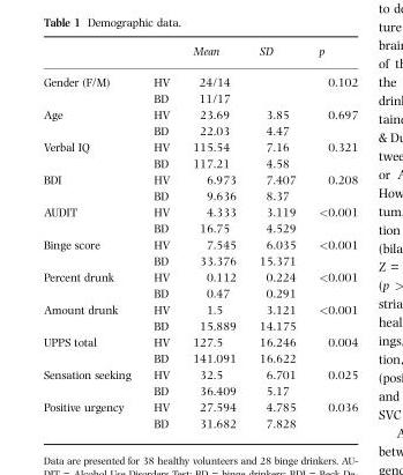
<table><thead><tr><td></td><td></td><td>Mean</td><td>SD</td><td>p</td></tr></thead><tbody><tr><td rowspan="2">Gender (F/M)</td><td>HV</td><td>24/14</td><td></td><td>0.102</td></tr><tr><td>BD</td><td>11/17</td><td></td><td></td></tr><tr><td rowspan="2">Age</td><td>HV</td><td>23.69</td><td>3.85</td><td>0.697</td></tr><tr><td>BD</td><td>22.03</td><td>4.47</td><td></td></tr><tr><td rowspan="2">Verbal IQ</td><td>HV</td><td>115.54</td><td>7.16</td><td>0.321</td></tr><tr><td>BD</td><td>117.21</td><td>4.58</td><td></td></tr><tr><td rowspan="2">BDI</td><td>HV</td><td>6.973</td><td>7.407</td><td>0.208</td></tr><tr><td>BD</td><td>9.636</td><td>8.37</td><td></td></tr><tr><td rowspan="2">AUDIT</td><td>HV</td><td>4.333</td><td>3.119</td><td>&lt;0.001</td></tr><tr><td>BD</td><td>16.75</td><td>4.529</td><td></td></tr><tr><td rowspan="2">Binge score</td><td>HV</td><td>7.545</td><td>6.035</td><td>&lt;0.001</td></tr><tr><td>BD</td><td>33.376</td><td>15.371</td><td></td></tr><tr><td rowspan="2">Percent drunk</td><td>HV</td><td>0.112</td><td>0.224</td><td>&lt;0.001</td></tr><tr><td>BD</td><td>0.47</td><td>0.291</td><td></td></tr><tr><td rowspan="2">Amount drunk</td><td>HV</td><td>1.5</td><td>3.121</td><td>&lt;0.001</td></tr><tr><td>BD</td><td>15.889</td><td>14.175</td><td></td></tr><tr><td rowspan="2">UPPS total</td><td>HV</td><td>127.5</td><td>16.246</td><td>0.004</td></tr><tr><td>BD</td><td>141.091</td><td>16.622</td><td></td></tr><tr><td rowspan="2">Sensation seeking</td><td>HV</td><td>32.5</td><td>6.701</td><td>0.025</td></tr><tr><td>BD</td><td>36.409</td><td>5.17</td><td></td></tr><tr><td rowspan="2">Positive urgency</td><td>HV</td><td>27.594</td><td>4.785</td><td>0.036</td></tr><tr><td>BD</td><td>31.682</td><td>7.828</td><td></td></tr></tbody></table>